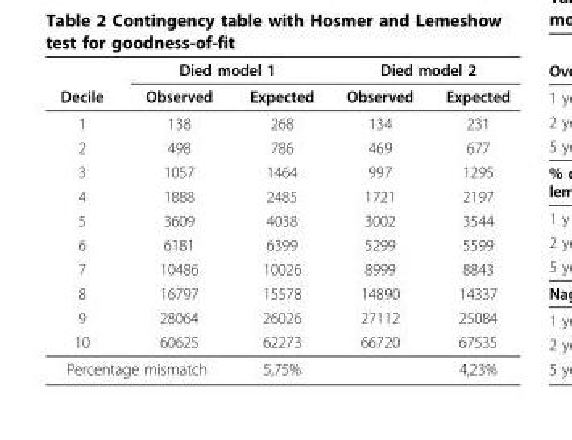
<table><thead><tr><td rowspan="2">Decile</td><td colspan="2">Died model 1</td><td colspan="2">Died model 2</td></tr><tr><td>Observed</td><td>Expected</td><td>Observed</td><td>Expected</td></tr></thead><tbody><tr><td>1</td><td>138</td><td>268</td><td>134</td><td>231</td></tr><tr><td>2</td><td>498</td><td>786</td><td>469</td><td>677</td></tr><tr><td>3</td><td>1057</td><td>1464</td><td>997</td><td>1295</td></tr><tr><td>4</td><td>1888</td><td>2485</td><td>1721</td><td>2197</td></tr><tr><td>5</td><td>3609</td><td>4038</td><td>3002</td><td>3544</td></tr><tr><td>6</td><td>6181</td><td>6399</td><td>5299</td><td>5599</td></tr><tr><td>7</td><td>10486</td><td>10026</td><td>8999</td><td>8843</td></tr><tr><td>8</td><td>16797</td><td>15578</td><td>14890</td><td>14337</td></tr><tr><td>9</td><td>28064</td><td>26026</td><td>27112</td><td>25084</td></tr><tr><td>10</td><td>60625</td><td>62273</td><td>66720</td><td>67535</td></tr><tr><td colspan="2">Percentage mismatch</td><td>5,75%</td><td></td><td>4,23%</td></tr></tbody></table>